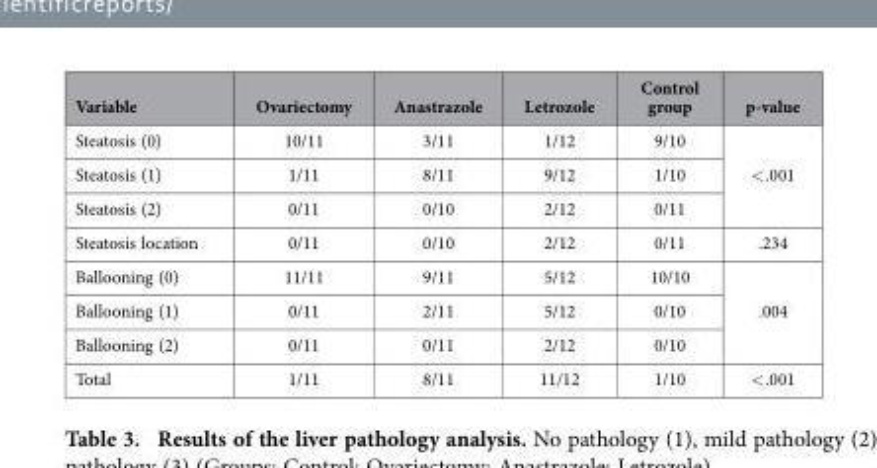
<table><thead><tr><td>Variable</td><td>Ovariectomy</td><td>Anastrazole</td><td>Letrozole</td><td>Control group</td><td>p-value</td></tr></thead><tbody><tr><td>Steatosis (0)</td><td>10/11</td><td>3/11</td><td>1/12</td><td>9/10</td><td rowspan="3">&lt; .001</td></tr><tr><td>Steatosis (1)</td><td>1/11</td><td>8/11</td><td>9/12</td><td>1/10</td></tr><tr><td>Steatosis (2)</td><td>0/11</td><td>0/10</td><td>2/12</td><td>0/11</td></tr><tr><td>Steatosis location</td><td>0/11</td><td>0/10</td><td>2/12</td><td>0/11</td><td>.234</td></tr><tr><td>Ballooning (0)</td><td>11/11</td><td>9/11</td><td>5/12</td><td>10/10</td><td rowspan="3">.004</td></tr><tr><td>Ballooning (1)</td><td>0/11</td><td>2/11</td><td>5/12</td><td>0/10</td></tr><tr><td>Ballooning (2)</td><td>0/11</td><td>0/11</td><td>2/12</td><td>0/10</td></tr><tr><td>Total</td><td>1/11</td><td>8/11</td><td>11/12</td><td>1/10</td><td>&lt; .001</td></tr></tbody></table>